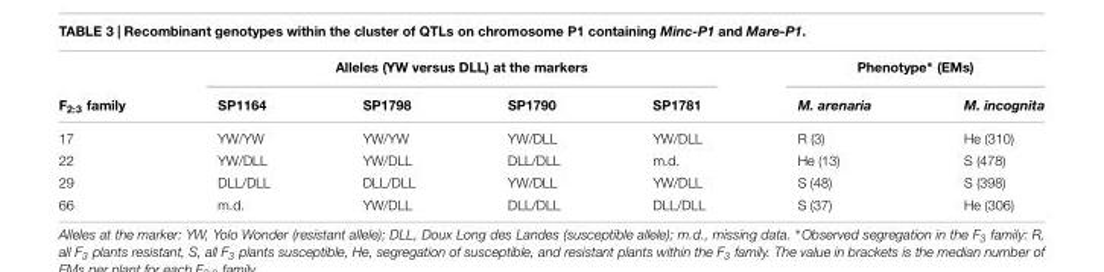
<table><thead><tr><td rowspan="2">F<sub>2:3</sub> family</td><td colspan="4">Alleles (YW versus DLL) at the markers</td><td colspan="2">Phenotype∗ (EMs)</td></tr><tr><td>SP1164</td><td>SP1798</td><td>SP1790</td><td>SP1781</td><td>M. arenaria</td><td>M. incognita</td></tr></thead><tbody><tr><td>17</td><td>YW/YW</td><td>YW/YW</td><td>YW/DLL</td><td>YW/DLL</td><td>R (3)</td><td>He (310)</td></tr><tr><td>22</td><td>YW/DLL</td><td>YW/DLL</td><td>DLL/DLL</td><td>m.d.</td><td>He (13)</td><td>S (478)</td></tr><tr><td>29</td><td>DLL/DLL</td><td>DLL/DLL</td><td>YW/DLL</td><td>YW/DLL</td><td>S (48)</td><td>S (398)</td></tr><tr><td>66</td><td>m.d.</td><td>YW/DLL</td><td>DLL/DLL</td><td>DLL/DLL</td><td>S (37)</td><td>He (306)</td></tr></tbody></table>